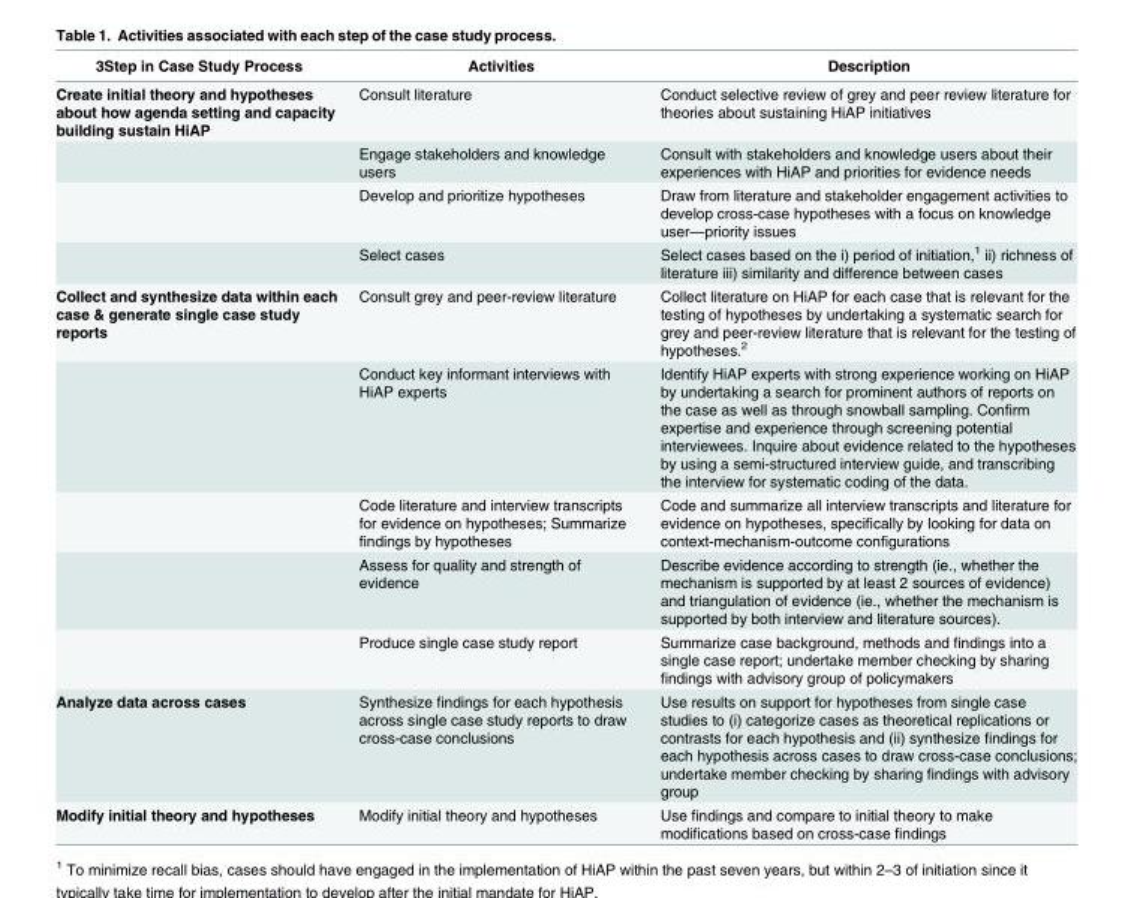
<table><thead><tr><td>3Step in Case Study Process</td><td>Activities</td><td>Description</td></tr></thead><tbody><tr><td rowspan="4">Create initial theory and hypotheses about how agenda setting and capacity building sustain HiAP</td><td>Consult literature</td><td>Conduct selective review of grey and peer review literature for theories about sustaining HiAP initiatives</td></tr><tr><td>Engage stakeholders and knowledge users</td><td>Consult with stakeholders and knowledge users about their experiences with HiAP and priorities for evidence needs</td></tr><tr><td>Develop and prioritize hypotheses</td><td>Draw from literature and stakeholder engagement activities to develop cross-case hypotheses with a focus on knowledge user—priority issues</td></tr><tr><td>Select cases</td><td>Select cases based on the i) period of initiation,<sup>1</sup> ii) richness of literature iii) similarity and difference between cases</td></tr><tr><td rowspan="5">Collect and synthesize data within each case &amp; generate single case study reports</td><td>Consult grey and peer-review literature</td><td>Collect literature on HiAP for each case that is relevant for the testing of hypotheses by undertaking a systematic search for grey and peer-review literature that is relevant for the testing of hypotheses.<sup>2</sup></td></tr><tr><td>Conduct key informant interviews with HiAP experts</td><td>Identify HiAP experts with strong experience working on HiAP by undertaking a search for prominent authors of reports on the case as well as through snowball sampling. Confirm expertise and experience through screening potential interviewees. Inquire about evidence related to the hypotheses by using a semi-structured interview guide, and transcribing the interview for systematic coding of the data.</td></tr><tr><td>Code literature and interview transcripts for evidence on hypotheses; Summarize findings by hypotheses</td><td>Code and summarize all interview transcripts and literature for evidence on hypotheses, specifically by looking for data on context-mechanism-outcome configurations</td></tr><tr><td>Assess for quality and strength of evidence</td><td>Describe evidence according to strength (ie., whether the mechanism is supported by at least 2 sources of evidence) and triangulation of evidence (ie., whether the mechanism is supported by both interview and literature sources).</td></tr><tr><td>Produce single case study report</td><td>Summarize case background, methods and findings into a single case report; undertake member checking by sharing findings with advisory group of policymakers</td></tr><tr><td>Analyze data across cases</td><td>Synthesize findings for each hypothesis across single case study reports to draw cross-case conclusions</td><td>Use results on support for hypotheses from single case studies to (i) categorize cases as theoretical replications or contrasts for each hypothesis and (ii) synthesize findings for each hypothesis across cases to draw cross-case conclusions; undertake member checking by sharing findings with advisory group</td></tr><tr><td>Modify initial theory and hypotheses</td><td>Modify initial theory and hypotheses</td><td>Use findings and compare to initial theory to make modifications based on cross-case findings</td></tr></tbody></table>